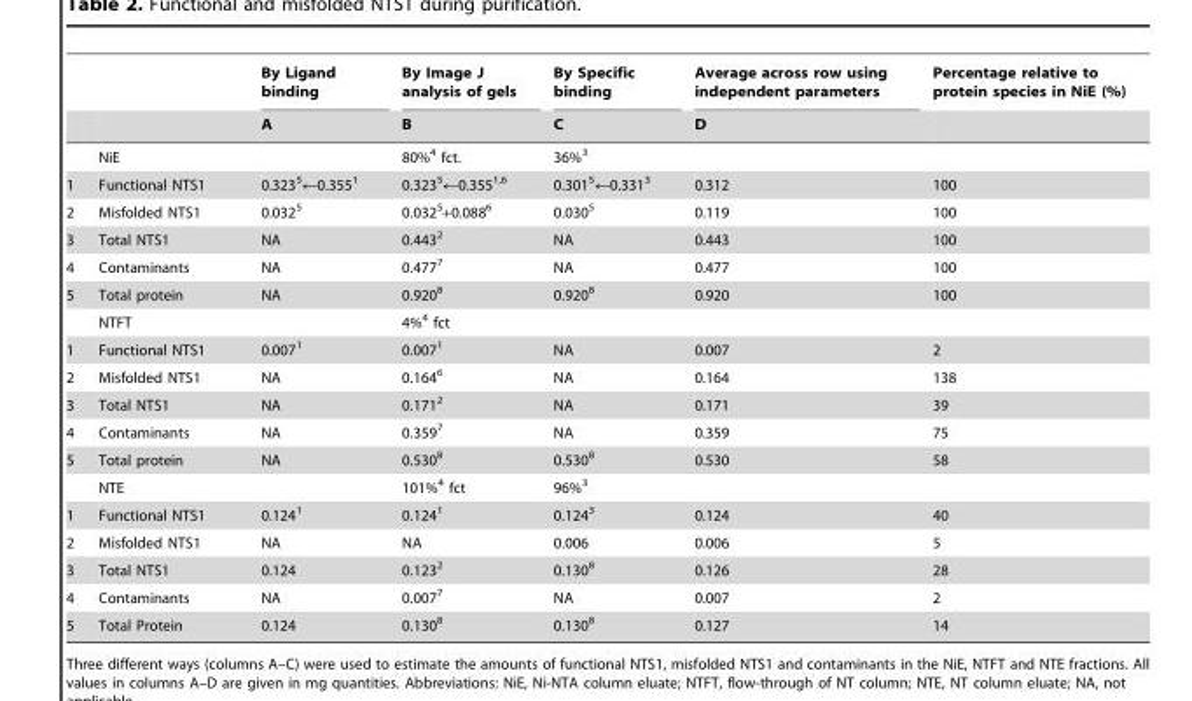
<table><thead><tr><td rowspan="2"></td><td rowspan="2"></td><td rowspan="2">By Ligand binding A</td><td rowspan="2">By Image J analysis of gels B</td><td rowspan="2">By Specific binding C</td><td rowspan="2">Average across row using independent parameters D</td><td rowspan="2">Percentage relative to protein species in NiE (%)</td></tr><tr></tr></thead><tbody><tr><td></td><td>NiE</td><td></td><td>80%<sup>4</sup> fct.</td><td>36%<sup>3</sup></td><td></td><td></td></tr><tr><td>1</td><td>Functional NTS1</td><td>0.323<sup>5</sup>←0.355<sup>1</sup></td><td>0.323<sup>5</sup>←0.355<sup>1,</sup>6</td><td>0.301<sup>5</sup>←0.331<sup>3</sup></td><td>0.312</td><td>100</td></tr><tr><td>2</td><td>Misfolded NTS1</td><td>0.032<sup>5</sup></td><td>0.032<sup>5</sup>+0.088<sup>6</sup></td><td>0.030<sup>5</sup></td><td>0.119</td><td>100</td></tr><tr><td>3</td><td>Total NTS1</td><td>NA</td><td>0.443<sup>2</sup></td><td>NA</td><td>0.443</td><td>100</td></tr><tr><td>4</td><td>Contaminants</td><td>NA</td><td>0.477<sup>7</sup></td><td>NA</td><td>0.477</td><td>100</td></tr><tr><td rowspan="2">5</td><td>Total protein</td><td>NA</td><td>0.920<sup>8</sup></td><td>0.920<sup>8</sup></td><td>0.920</td><td>100</td></tr><tr><td>NTFT</td><td></td><td>4%<sup>4</sup> fct</td><td></td><td></td><td></td></tr><tr><td>1</td><td>Functional NTS1</td><td>0.007<sup>1</sup></td><td>0.007<sup>1</sup></td><td>NA</td><td>0.007</td><td>2</td></tr><tr><td>2</td><td>Misfolded NTS1</td><td>NA</td><td>0.164<sup>6</sup></td><td>NA</td><td>0.164</td><td>138</td></tr><tr><td>3</td><td>Total NTS1</td><td>NA</td><td>0.171<sup>2</sup></td><td>NA</td><td>0.171</td><td>39</td></tr><tr><td>4</td><td>Contaminants</td><td>NA</td><td>0.359<sup>7</sup></td><td>NA</td><td>0.359</td><td>75</td></tr><tr><td rowspan="2">5</td><td>Total protein</td><td>NA</td><td>0.530<sup>8</sup></td><td>0.530<sup>8</sup></td><td>0.530</td><td>58</td></tr><tr><td>NTE</td><td></td><td>101%<sup>4</sup> fct</td><td>96%<sup>3</sup></td><td></td><td></td></tr><tr><td>1</td><td>Functional NTS1</td><td>0.124<sup>1</sup></td><td>0.124<sup>1</sup></td><td>0.124<sup>3</sup></td><td>0.124</td><td>40</td></tr><tr><td>2</td><td>Misfolded NTS1</td><td>NA</td><td>NA</td><td>0.006</td><td>0.006</td><td>5</td></tr><tr><td>3</td><td>Total NTS1</td><td>0.124</td><td>0.123<sup>2</sup></td><td>0.130<sup>8</sup></td><td>0.126</td><td>28</td></tr><tr><td>4</td><td>Contaminants</td><td>NA</td><td>0.007<sup>7</sup></td><td>NA</td><td>0.007</td><td>2</td></tr><tr><td>5</td><td>Total Protein</td><td>0.124</td><td>0.130<sup>8</sup></td><td>0.130<sup>8</sup></td><td>0.127</td><td>14</td></tr></tbody></table>